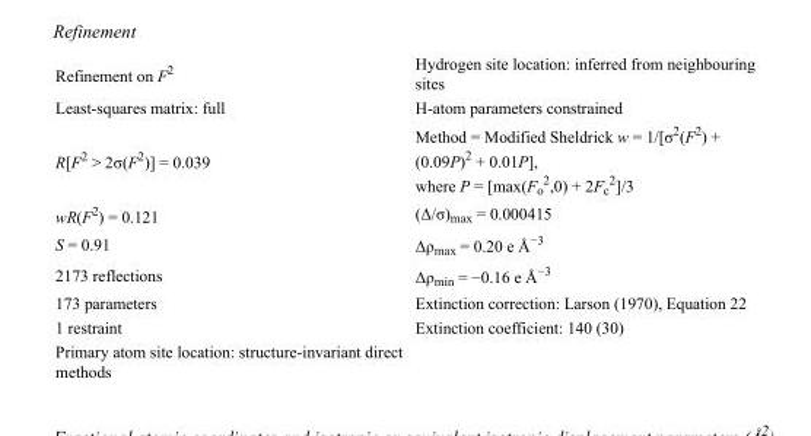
<table><tbody><tr><td>Refinement on F<sup>2</sup></td><td>Hydrogen site location: inferred from neighbouring sites</td></tr><tr><td>Least-squares matrix: full</td><td>H-atom parameters constrained</td></tr><tr><td>R[F<sup>2</sup> &gt; 2σ(F<sup>2</sup>)] = 0.039</td><td>Method = Modified Sheldrick w = 1/[σ<sup>2</sup>(F<sup>2</sup>) + (0.09P)<sup>2</sup> + 0.01P], where P = [max(F<sub>o</sub> <sup>2</sup>,0) + 2F<sub>c</sub> <sup>2</sup>]/3</td></tr><tr><td>wR(F<sup>2</sup>) = 0.121</td><td>(Δ/σ)<sub>max</sub> = 0.000415</td></tr><tr><td>S = 0.91</td><td>Δρ<sub>max</sub> = 0.20 e Å<sup>−3</sup></td></tr><tr><td>2173 reflections</td><td>Δρ<sub>min</sub> = −0.16 e Å<sup>−3</sup></td></tr><tr><td>173 parameters</td><td>Extinction correction: Larson (1970), Equation 22</td></tr><tr><td>1 restraint</td><td>Extinction coefficient: 140 (30)</td></tr><tr><td>Primary atom site location: structure-invariant direct methods</td><td></td></tr></tbody></table>